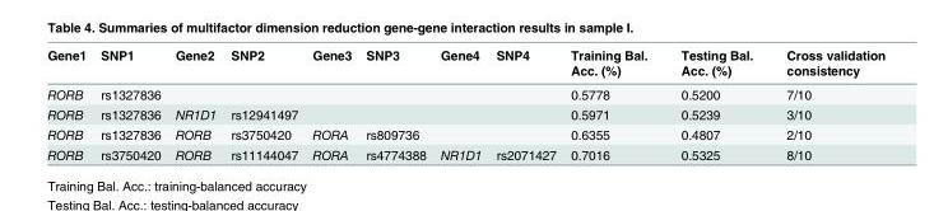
<table><thead><tr><td>Gene1</td><td>SNP1</td><td>Gene2</td><td>SNP2</td><td>Gene3</td><td>SNP3</td><td>Gene4</td><td>SNP4</td><td>Training Bal. Acc. (%)</td><td>Testing Bal. Acc. (%)</td><td>Cross validation consistency</td></tr></thead><tbody><tr><td>RORB</td><td>rs1327836</td><td></td><td></td><td></td><td></td><td></td><td></td><td>0.5778</td><td>0.5200</td><td>7/10</td></tr><tr><td>RORB</td><td>rs1327836</td><td>NR1D1</td><td>rs12941497</td><td></td><td></td><td></td><td></td><td>0.5971</td><td>0.5239</td><td>3/10</td></tr><tr><td>RORB</td><td>rs1327836</td><td>RORB</td><td>rs3750420</td><td>RORA</td><td>rs809736</td><td></td><td></td><td>0.6355</td><td>0.4807</td><td>2/10</td></tr><tr><td>RORB</td><td>rs3750420</td><td>RORB</td><td>rs11144047</td><td>RORA</td><td>rs4774388</td><td>NR1D1</td><td>rs2071427</td><td>0.7016</td><td>0.5325</td><td>8/10</td></tr></tbody></table>